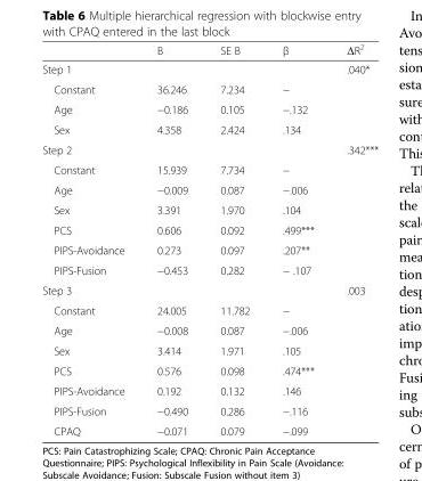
<table><thead><tr><td></td><td>B</td><td>SE B</td><td>β</td><td>ΔR<sup>2</sup></td></tr></thead><tbody><tr><td>Step 1</td><td></td><td></td><td></td><td>.040*</td></tr><tr><td>Constant</td><td>36.246</td><td>7.234</td><td>−</td><td></td></tr><tr><td>Age</td><td>−0.186</td><td>0.105</td><td>−.132</td><td></td></tr><tr><td>Sex</td><td>4.358</td><td>2.424</td><td>.134</td><td></td></tr><tr><td>Step 2</td><td></td><td></td><td></td><td>.342***</td></tr><tr><td>Constant</td><td>15.939</td><td>7.734</td><td>−</td><td></td></tr><tr><td>Age</td><td>−0.009</td><td>0.087</td><td>−.006</td><td></td></tr><tr><td>Sex</td><td>3.391</td><td>1.970</td><td>.104</td><td></td></tr><tr><td>PCS</td><td>0.606</td><td>0.092</td><td>.499***</td><td></td></tr><tr><td>PIPS-Avoidance</td><td>0.273</td><td>0.097</td><td>.207**</td><td></td></tr><tr><td>PIPS-Fusion</td><td>−0.453</td><td>0.282</td><td>− .107</td><td></td></tr><tr><td>Step 3</td><td></td><td></td><td></td><td>.003</td></tr><tr><td>Constant</td><td>24.005</td><td>11.782</td><td>−</td><td></td></tr><tr><td>Age</td><td>−0.008</td><td>0.087</td><td>−.006</td><td></td></tr><tr><td>Sex</td><td>3.414</td><td>1.971</td><td>.105</td><td></td></tr><tr><td>PCS</td><td>0.576</td><td>0.098</td><td>.474***</td><td></td></tr><tr><td>PIPS-Avoidance</td><td>0.192</td><td>0.132</td><td>.146</td><td></td></tr><tr><td>PIPS-Fusion</td><td>−0.490</td><td>0.286</td><td>−.116</td><td></td></tr><tr><td>CPAQ</td><td>−0.071</td><td>0.079</td><td>−.099</td><td></td></tr></tbody></table>